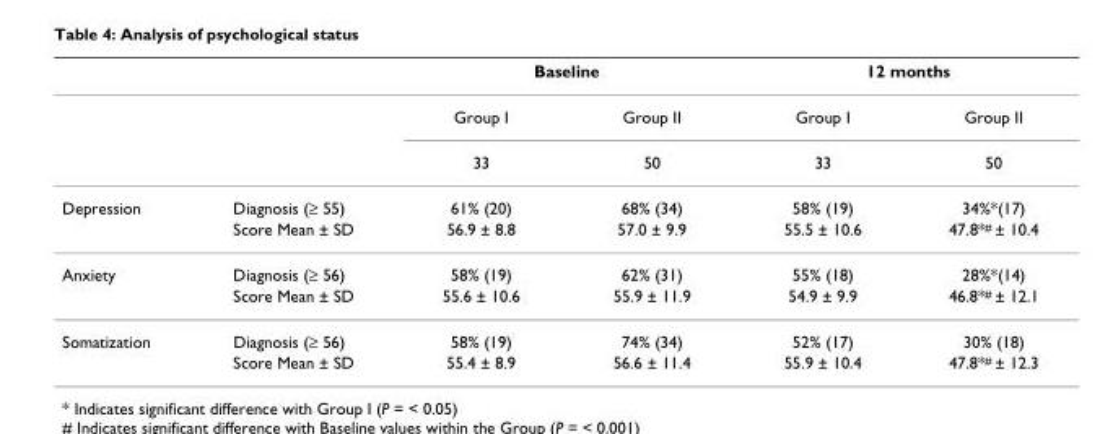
<table><thead><tr><td rowspan="2"></td><td rowspan="2"></td><td colspan="2">Baseline</td><td colspan="2">12 months</td></tr><tr><td>Group I</td><td>Group II</td><td>Group I</td><td>Group II</td></tr></thead><tbody><tr><td></td><td></td><td>33</td><td>50</td><td>33</td><td>50</td></tr><tr><td rowspan="2">Depression</td><td>Diagnosis (≥ 55)</td><td>61% (20)</td><td>68% (34)</td><td>58% (19)</td><td>34%*(17)</td></tr><tr><td>Score Mean ± SD</td><td>56.9 ± 8.8</td><td>57.0 ± 9.9</td><td>55.5 ± 10.6</td><td>47.8*<sup>#</sup> ± 10.4</td></tr><tr><td rowspan="2">Anxiety</td><td>Diagnosis (≥ 56)</td><td>58% (19)</td><td>62% (31)</td><td>55% (18)</td><td>28%*(14)</td></tr><tr><td>Score Mean ± SD</td><td>55.6 ± 10.6</td><td>55.9 ± 11.9</td><td>54.9 ± 9.9</td><td>46.8*<sup>#</sup> ± 12.1</td></tr><tr><td rowspan="2">Somatization</td><td>Diagnosis (≥ 56)</td><td>58% (19)</td><td>74% (34)</td><td>52% (17)</td><td>30% (18)</td></tr><tr><td>Score Mean ± SD</td><td>55.4 ± 8.9</td><td>56.6 ± 11.4</td><td>55.9 ± 10.4</td><td>47.8*<sup>#</sup> ± 12.3</td></tr></tbody></table>